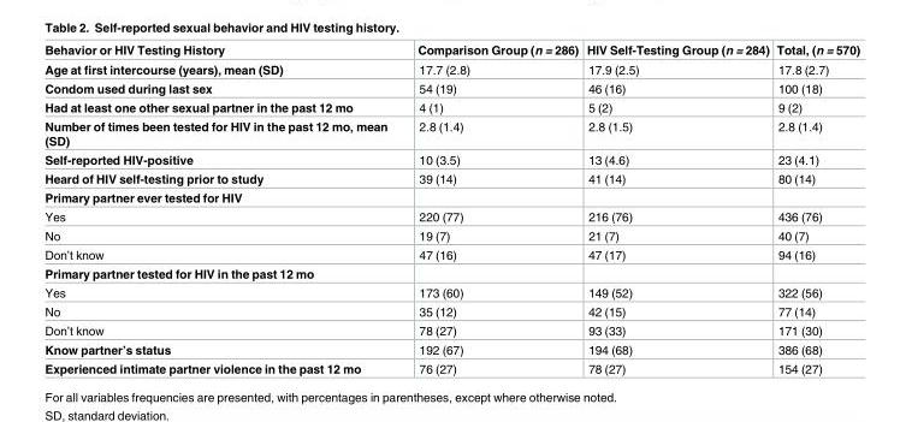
<table><thead><tr><td>Behavior or HIV Testing History</td><td>Comparison Group (n = 286)</td><td>HIV Self-Testing Group (n = 284)</td><td>Total, (n = 570)</td></tr></thead><tbody><tr><td>Age at first intercourse (years), mean (SD)</td><td>17.7 (2.8)</td><td>17.9 (2.5)</td><td>17.8 (2.7)</td></tr><tr><td>Condom used during last sex</td><td>54 (19)</td><td>46 (16)</td><td>100 (18)</td></tr><tr><td>Had at least one other sexual partner in the past 12 mo</td><td>4 (1)</td><td>5 (2)</td><td>9 (2)</td></tr><tr><td>Number of times been tested for HIV in the past 12 mo, mean (SD)</td><td>2.8 (1.4)</td><td>2.8 (1.5)</td><td>2.8 (1.4)</td></tr><tr><td>Self-reported HIV-positive</td><td>10 (3.5)</td><td>13 (4.6)</td><td>23 (4.1)</td></tr><tr><td>Heard of HIV self-testing prior to study</td><td>39 (14)</td><td>41 (14)</td><td>80 (14)</td></tr><tr><td colspan="4">Primary partner ever tested for HIV</td></tr><tr><td>Yes</td><td>220 (77)</td><td>216 (76)</td><td>436 (76)</td></tr><tr><td>No</td><td>19 (7)</td><td>21 (7)</td><td>40 (7)</td></tr><tr><td>Don’t know</td><td>47 (16)</td><td>47 (17)</td><td>94 (16)</td></tr><tr><td colspan="4">Primary partner tested for HIV in the past 12 mo</td></tr><tr><td>Yes</td><td>173 (60)</td><td>149 (52)</td><td>322 (56)</td></tr><tr><td>No</td><td>35 (12)</td><td>42 (15)</td><td>77 (14)</td></tr><tr><td>Don’t know</td><td>78 (27)</td><td>93 (33)</td><td>171 (30)</td></tr><tr><td>Know partner’s status</td><td>192 (67)</td><td>194 (68)</td><td>386 (68)</td></tr><tr><td>Experienced intimate partner violence in the past 12 mo</td><td>76 (27)</td><td>78 (27)</td><td>154 (27)</td></tr></tbody></table>